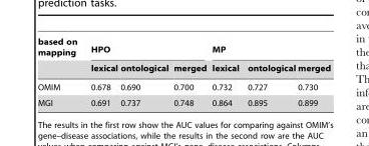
<table><thead><tr><td rowspan="2">based on mapping</td><td colspan="3">HPO</td><td colspan="3">MP</td></tr><tr><td>lexical</td><td>ontological</td><td>merged</td><td>lexical</td><td>ontological</td><td>merged</td></tr></thead><tbody><tr><td>OMIM</td><td>0.678</td><td>0.690</td><td>0.700</td><td>0.732</td><td>0.727</td><td>0.730</td></tr><tr><td>MGI</td><td>0.691</td><td>0.737</td><td>0.748</td><td>0.864</td><td>0.895</td><td>0.899</td></tr></tbody></table>